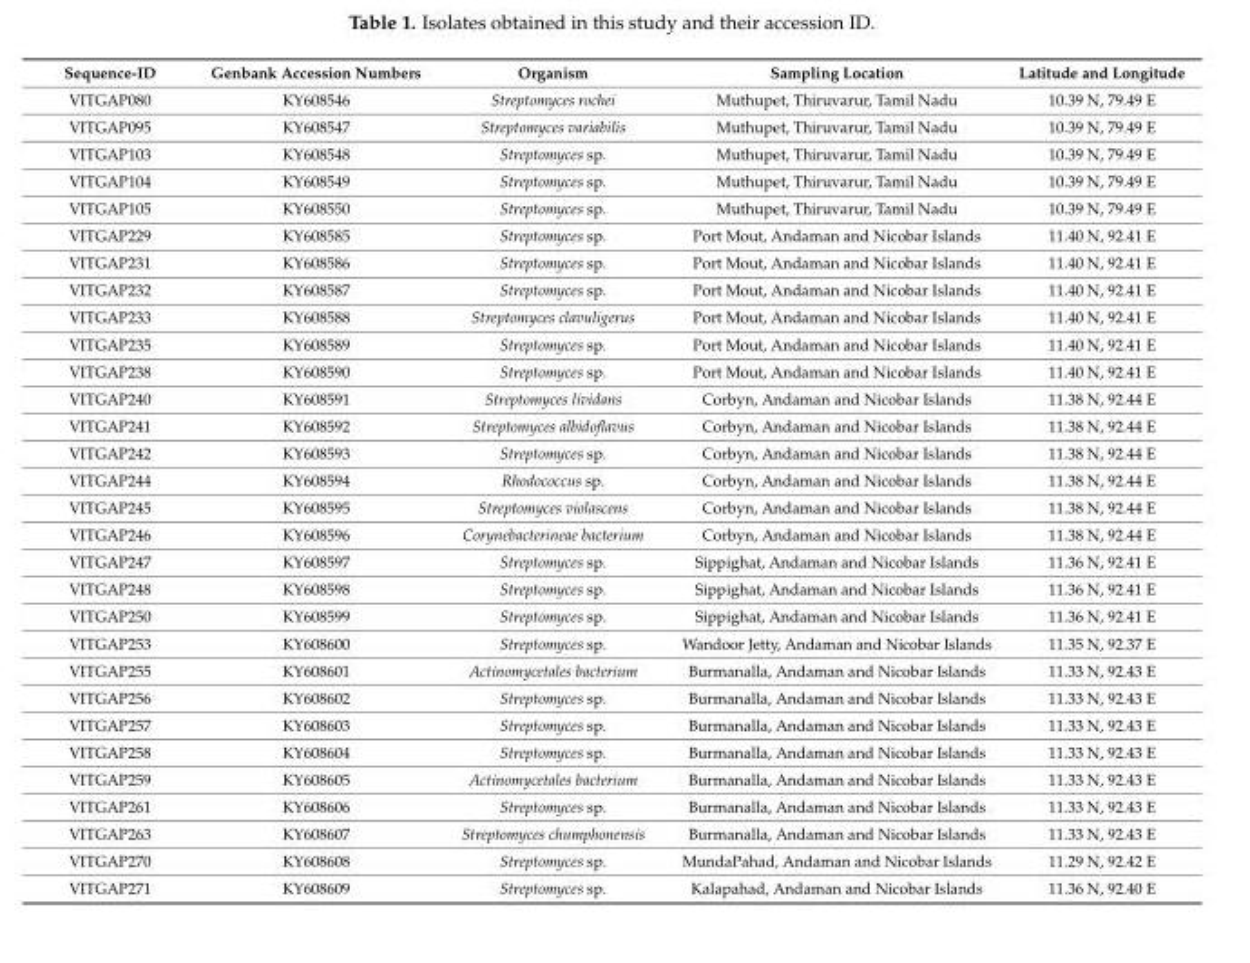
<table><thead><tr><td>Sequence-ID</td><td>Genbank Accession Numbers</td><td>Organism</td><td>Sampling Location</td><td>Latitude and Longitude</td></tr></thead><tbody><tr><td>VITGAP080</td><td>KY608546</td><td>Streptomyces rochei</td><td>Muthupet, Thiruvarur, Tamil Nadu</td><td>10.39 N, 79.49 E</td></tr><tr><td>VITGAP095</td><td>KY608547</td><td>Streptomyces variabilis</td><td>Muthupet, Thiruvarur, Tamil Nadu</td><td>10.39 N, 79.49 E</td></tr><tr><td>VITGAP103</td><td>KY608548</td><td>Streptomyces sp.</td><td>Muthupet, Thiruvarur, Tamil Nadu</td><td>10.39 N, 79.49 E</td></tr><tr><td>VITGAP104</td><td>KY608549</td><td>Streptomyces sp.</td><td>Muthupet, Thiruvarur, Tamil Nadu</td><td>10.39 N, 79.49 E</td></tr><tr><td>VITGAP105</td><td>KY608550</td><td>Streptomyces sp.</td><td>Muthupet, Thiruvarur, Tamil Nadu</td><td>10.39 N, 79.49 E</td></tr><tr><td>VITGAP229</td><td>KY608585</td><td>Streptomyces sp.</td><td>Port Mout, Andaman and Nicobar Islands</td><td>11.40 N, 92.41 E</td></tr><tr><td>VITGAP231</td><td>KY608586</td><td>Streptomyces sp.</td><td>Port Mout, Andaman and Nicobar Islands</td><td>11.40 N, 92.41 E</td></tr><tr><td>VITGAP232</td><td>KY608587</td><td>Streptomyces sp.</td><td>Port Mout, Andaman and Nicobar Islands</td><td>11.40 N, 92.41 E</td></tr><tr><td>VITGAP233</td><td>KY608588</td><td>Streptomyces clavuligerus</td><td>Port Mout, Andaman and Nicobar Islands</td><td>11.40 N, 92.41 E</td></tr><tr><td>VITGAP235</td><td>KY608589</td><td>Streptomyces sp.</td><td>Port Mout, Andaman and Nicobar Islands</td><td>11.40 N, 92.41 E</td></tr><tr><td>VITGAP238</td><td>KY608590</td><td>Streptomyces sp.</td><td>Port Mout, Andaman and Nicobar Islands</td><td>11.40 N, 92.41 E</td></tr><tr><td>VITGAP240</td><td>KY608591</td><td>Streptomyces lividans</td><td>Corbyn, Andaman and Nicobar Islands</td><td>11.38 N, 92.44 E</td></tr><tr><td>VITGAP241</td><td>KY608592</td><td>Streptomyces albidoflavus</td><td>Corbyn, Andaman and Nicobar Islands</td><td>11.38 N, 92.44 E</td></tr><tr><td>VITGAP242</td><td>KY608593</td><td>Streptomyces sp.</td><td>Corbyn, Andaman and Nicobar Islands</td><td>11.38 N, 92.44 E</td></tr><tr><td>VITGAP244</td><td>KY608594</td><td>Rhodococcus sp.</td><td>Corbyn, Andaman and Nicobar Islands</td><td>11.38 N, 92.44 E</td></tr><tr><td>VITGAP245</td><td>KY608595</td><td>Streptomyces violascens</td><td>Corbyn, Andaman and Nicobar Islands</td><td>11.38 N, 92.44 E</td></tr><tr><td>VITGAP246</td><td>KY608596</td><td>Corynebacterineae bacterium</td><td>Corbyn, Andaman and Nicobar Islands</td><td>11.38 N, 92.44 E</td></tr><tr><td>VITGAP247</td><td>KY608597</td><td>Streptomyces sp.</td><td>Sippighat, Andaman and Nicobar Islands</td><td>11.36 N, 92.41 E</td></tr><tr><td>VITGAP248</td><td>KY608598</td><td>Streptomyces sp.</td><td>Sippighat, Andaman and Nicobar Islands</td><td>11.36 N, 92.41 E</td></tr><tr><td>VITGAP250</td><td>KY608599</td><td>Streptomyces sp.</td><td>Sippighat, Andaman and Nicobar Islands</td><td>11.36 N, 92.41 E</td></tr><tr><td>VITGAP253</td><td>KY608600</td><td>Streptomyces sp.</td><td>Wandoor Jetty, Andaman and Nicobar Islands</td><td>11.35 N, 92.37 E</td></tr><tr><td>VITGAP255</td><td>KY608601</td><td>Actinomycetales bacterium</td><td>Burmanalla, Andaman and Nicobar Islands</td><td>11.33 N, 92.43 E</td></tr><tr><td>VITGAP256</td><td>KY608602</td><td>Streptomyces sp.</td><td>Burmanalla, Andaman and Nicobar Islands</td><td>11.33 N, 92.43 E</td></tr><tr><td>VITGAP257</td><td>KY608603</td><td>Streptomyces sp.</td><td>Burmanalla, Andaman and Nicobar Islands</td><td>11.33 N, 92.43 E</td></tr><tr><td>VITGAP258</td><td>KY608604</td><td>Streptomyces sp.</td><td>Burmanalla, Andaman and Nicobar Islands</td><td>11.33 N, 92.43 E</td></tr><tr><td>VITGAP259</td><td>KY608605</td><td>Actinomycetales bacterium</td><td>Burmanalla, Andaman and Nicobar Islands</td><td>11.33 N, 92.43 E</td></tr><tr><td>VITGAP261</td><td>KY608606</td><td>Streptomyces sp.</td><td>Burmanalla, Andaman and Nicobar Islands</td><td>11.33 N, 92.43 E</td></tr><tr><td>VITGAP263</td><td>KY608607</td><td>Streptomyces chumphonensis</td><td>Burmanalla, Andaman and Nicobar Islands</td><td>11.33 N, 92.43 E</td></tr><tr><td>VITGAP270</td><td>KY608608</td><td>Streptomyces sp.</td><td>MundaPahad, Andaman and Nicobar Islands</td><td>11.29 N, 92.42 E</td></tr><tr><td>VITGAP271</td><td>KY608609</td><td>Streptomyces sp.</td><td>Kalapahad, Andaman and Nicobar Islands</td><td>11.36 N, 92.40 E</td></tr></tbody></table>